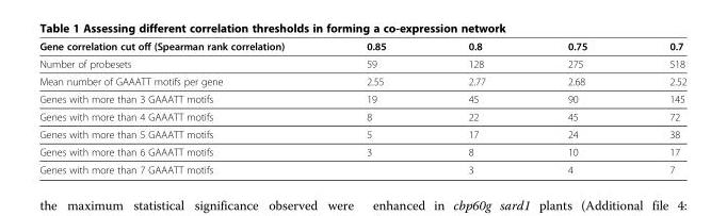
<table><tbody><tr><td>Gene correlation cut off (Spearman rank correlation)</td><td>0.85</td><td>0.8</td><td>0.75</td><td>0.7</td></tr><tr><td>Number of probesets</td><td>59</td><td>128</td><td>275</td><td>518</td></tr><tr><td>Mean number of GAAATT motifs per gene</td><td>2.55</td><td>2.77</td><td>2.68</td><td>2.52</td></tr><tr><td>Genes with more than 3 GAAATT motifs</td><td>19</td><td>45</td><td>90</td><td>145</td></tr><tr><td>Genes with more than 4 GAAATT motifs</td><td>8</td><td>22</td><td>45</td><td>72</td></tr><tr><td>Genes with more than 5 GAAATT motifs</td><td>5</td><td>17</td><td>24</td><td>38</td></tr><tr><td>Genes with more than 6 GAAATT motifs</td><td>3</td><td>8</td><td>10</td><td>17</td></tr><tr><td>Genes with more than 7 GAAATT motifs</td><td></td><td>3</td><td>4</td><td>7</td></tr></tbody></table>